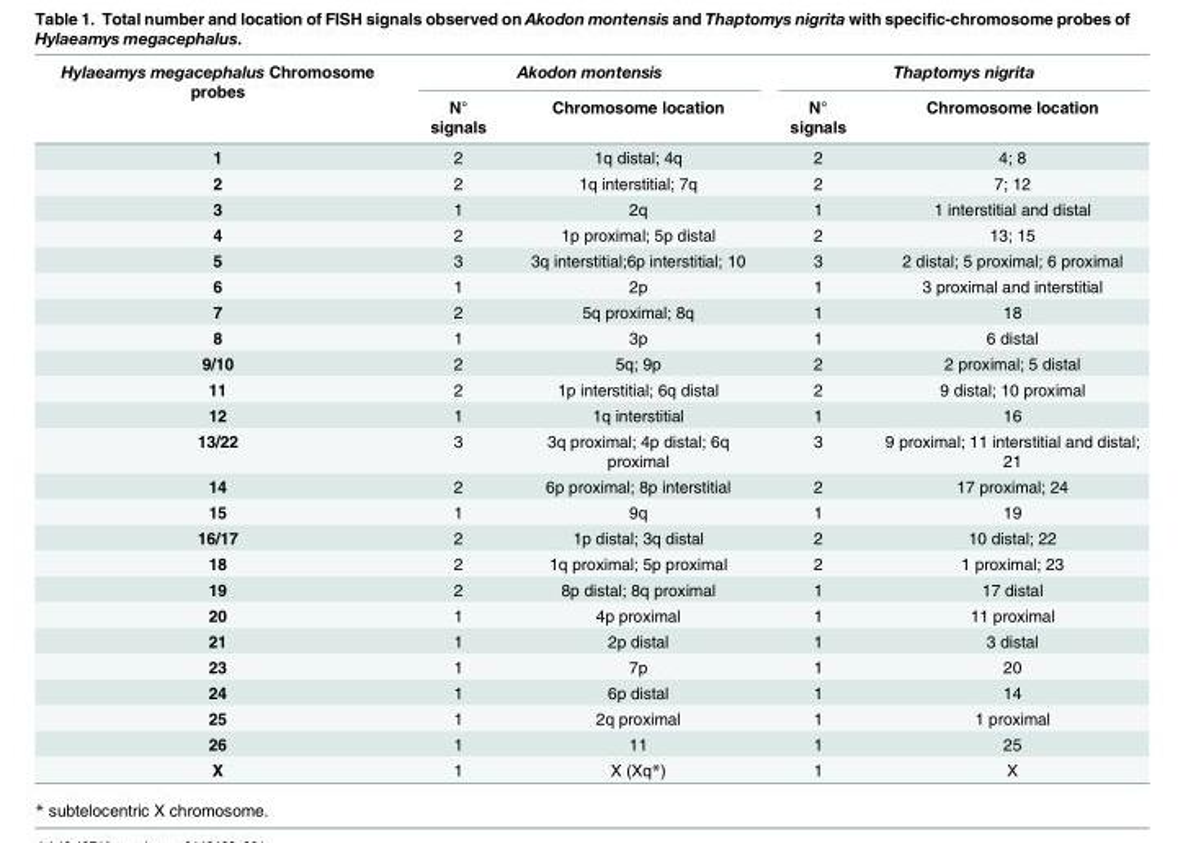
<table><thead><tr><td rowspan="2">Hylaeamys megacephalus Chromosome probes</td><td colspan="2">Akodon montensis</td><td colspan="2">Thaptomys nigrita</td></tr><tr><td>N° signals</td><td>Chromosome location</td><td>N° signals</td><td>Chromosome location</td></tr></thead><tbody><tr><td>1</td><td>2</td><td>1q distal; 4q</td><td>2</td><td>4; 8</td></tr><tr><td>2</td><td>2</td><td>1q interstitial; 7q</td><td>2</td><td>7; 12</td></tr><tr><td>3</td><td>1</td><td>2q</td><td>1</td><td>1 interstitial and distal</td></tr><tr><td>4</td><td>2</td><td>1p proximal; 5p distal</td><td>2</td><td>13; 15</td></tr><tr><td>5</td><td>3</td><td>3q interstitial;6p interstitial; 10</td><td>3</td><td>2 distal; 5 proximal; 6 proximal</td></tr><tr><td>6</td><td>1</td><td>2p</td><td>1</td><td>3 proximal and interstitial</td></tr><tr><td>7</td><td>2</td><td>5q proximal; 8q</td><td>1</td><td>18</td></tr><tr><td>8</td><td>1</td><td>3p</td><td>1</td><td>6 distal</td></tr><tr><td>9/10</td><td>2</td><td>5q; 9p</td><td>2</td><td>2 proximal; 5 distal</td></tr><tr><td>11</td><td>2</td><td>1p interstitial; 6q distal</td><td>2</td><td>9 distal; 10 proximal</td></tr><tr><td>12</td><td>1</td><td>1q interstitial</td><td>1</td><td>16</td></tr><tr><td>13/22</td><td>3</td><td>3q proximal; 4p distal; 6q proximal</td><td>3</td><td>9 proximal; 11 interstitial and distal; 21</td></tr><tr><td>14</td><td>2</td><td>6p proximal; 8p interstitial</td><td>2</td><td>17 proximal; 24</td></tr><tr><td>15</td><td>1</td><td>9q</td><td>1</td><td>19</td></tr><tr><td>16/17</td><td>2</td><td>1p distal; 3q distal</td><td>2</td><td>10 distal; 22</td></tr><tr><td>18</td><td>2</td><td>1q proximal; 5p proximal</td><td>2</td><td>1 proximal; 23</td></tr><tr><td>19</td><td>2</td><td>8p distal; 8q proximal</td><td>1</td><td>17 distal</td></tr><tr><td>20</td><td>1</td><td>4p proximal</td><td>1</td><td>11 proximal</td></tr><tr><td>21</td><td>1</td><td>2p distal</td><td>1</td><td>3 distal</td></tr><tr><td>23</td><td>1</td><td>7p</td><td>1</td><td>20</td></tr><tr><td>24</td><td>1</td><td>6p distal</td><td>1</td><td>14</td></tr><tr><td>25</td><td>1</td><td>2q proximal</td><td>1</td><td>1 proximal</td></tr><tr><td>26</td><td>1</td><td>11</td><td>1</td><td>25</td></tr><tr><td>X</td><td>1</td><td>X (Xq*)</td><td>1</td><td>X</td></tr></tbody></table>